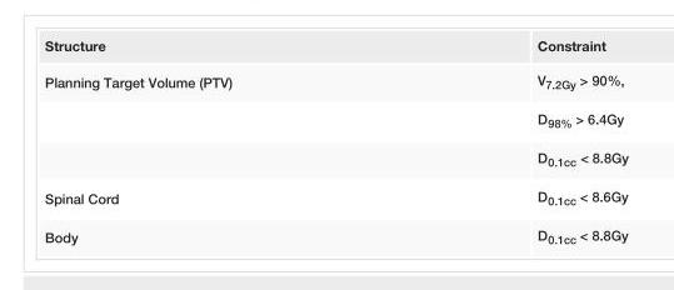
<table><tbody><tr><td>Structure</td><td>Constraint</td></tr><tr><td rowspan="3">Planning Target Volume (PTV)</td><td>V<sub>7.2Gy</sub> &gt; 90%,</td></tr><tr><td>D<sub>98%</sub> &gt; 6.4Gy</td></tr><tr><td>D<sub>0.1cc</sub> &lt; 8.8Gy</td></tr><tr><td>Spinal Cord</td><td>D<sub>0.1cc</sub> &lt; 8.6Gy</td></tr><tr><td>Body</td><td>D<sub>0.1cc</sub> &lt; 8.8Gy</td></tr></tbody></table>